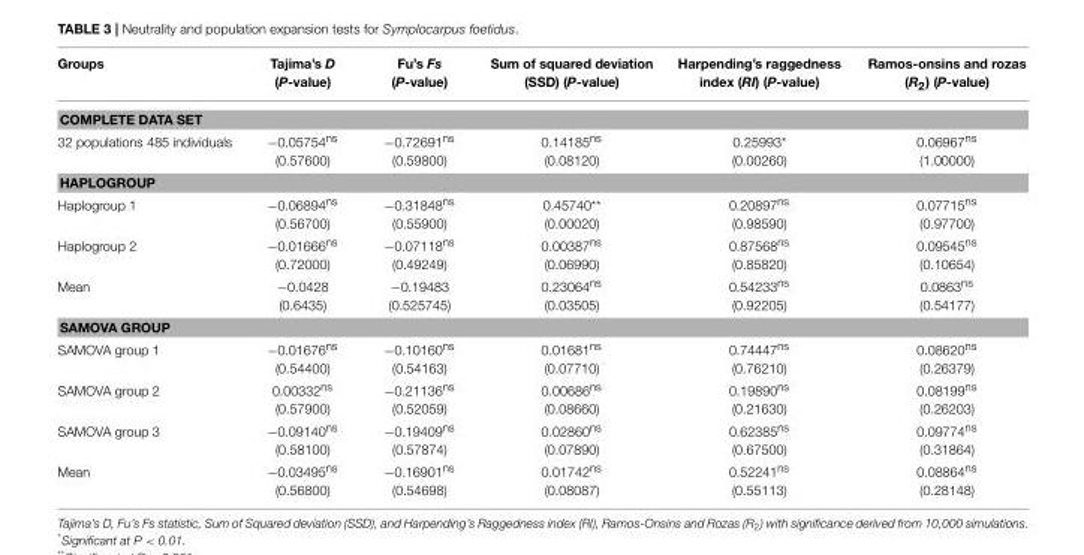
<table><thead><tr><td>Groups</td><td>Tajima’s D (P-value)</td><td>Fu’s Fs (P-value)</td><td>Sum of squared deviation (SSD) (P-value)</td><td>Harpending’s raggedness index (RI) (P-value)</td><td>Ramos-onsins and rozas (R<sub>2</sub>) (P-value)</td></tr></thead><tbody><tr><td colspan="6">COMPLETE DATA SET</td></tr><tr><td>32 populations 485 individuals</td><td>−0.05754<sup>ns</sup> (0.57600)</td><td>−0.72691<sup>ns</sup> (0.59800)</td><td>0.14185<sup>ns</sup> (0.08120)</td><td>0.25993* (0.00260)</td><td>0.06967<sup>ns</sup> (1.00000)</td></tr><tr><td colspan="6">HAPLOGROUP</td></tr><tr><td>Haplogroup 1</td><td>−0.06894<sup>ns</sup> (0.56700)</td><td>−0.31848<sup>ns</sup> (0.55900)</td><td>0.45740** (0.00020)</td><td>0.20897<sup>ns</sup> (0.98590)</td><td>0.07715<sup>ns</sup> (0.97700)</td></tr><tr><td>Haplogroup 2</td><td>−0.01666<sup>ns</sup> (0.72000)</td><td>−0.07118<sup>ns</sup> (0.49249)</td><td>0.00387<sup>ns</sup> (0.06990)</td><td>0.87568<sup>ns</sup> (0.85820)</td><td>0.09545<sup>ns</sup> (0.10654)</td></tr><tr><td>Mean</td><td>−0.0428 (0.6435)</td><td>−0.19483 (0.525745)</td><td>0.23064<sup>ns</sup> (0.03505)</td><td>0.54233<sup>ns</sup> (0.92205)</td><td>0.0863<sup>ns</sup> (0.54177)</td></tr><tr><td colspan="6">SAMOVA GROUP</td></tr><tr><td>SAMOVA group 1</td><td>−0.01676<sup>ns</sup> (0.54400)</td><td>−0.10160<sup>ns</sup> (0.54163)</td><td>0.01681<sup>ns</sup> (0.07710)</td><td>0.74447<sup>ns</sup> (0.76210)</td><td>0.08620<sup>ns</sup> (0.26379)</td></tr><tr><td>SAMOVA group 2</td><td>0.00332<sup>ns</sup> (0.57900)</td><td>−0.21136<sup>ns</sup> (0.52059)</td><td>0.00686<sup>ns</sup> (0.08660)</td><td>0.19890<sup>ns</sup> (0.21630)</td><td>0.08199<sup>ns</sup> (0.26203)</td></tr><tr><td>SAMOVA group 3</td><td>−0.09140<sup>ns</sup> (0.58100)</td><td>−0.19409<sup>ns</sup> (0.57874)</td><td>0.02860<sup>ns</sup> (0.07890)</td><td>0.62385<sup>ns</sup> (0.67500)</td><td>0.09774<sup>ns</sup> (0.31864)</td></tr><tr><td>Mean</td><td>−0.03495<sup>ns</sup> (0.56800)</td><td>−0.16901<sup>ns</sup> (0.54698)</td><td>0.01742<sup>ns</sup> (0.08087)</td><td>0.52241<sup>ns</sup> (0.55113)</td><td>0.08864<sup>ns</sup> (0.28148)</td></tr></tbody></table>